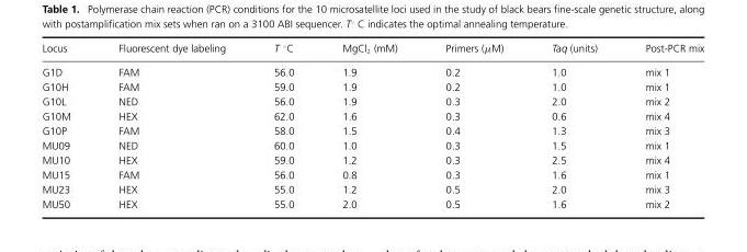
<table><thead><tr><td>Locus</td><td>Fluorescent dye labeling</td><td>T ◦C</td><td>MgCl<sub>2</sub> (mM)</td><td>Primers (μM)</td><td>Taq (units)</td><td>Post-PCR mix</td></tr></thead><tbody><tr><td>G1D</td><td>FAM</td><td>56.0</td><td>1.9</td><td>0.2</td><td>1.0</td><td>mix 1</td></tr><tr><td>G10H</td><td>FAM</td><td>59.0</td><td>1.9</td><td>0.2</td><td>1.0</td><td>mix 1</td></tr><tr><td>G10L</td><td>NED</td><td>56.0</td><td>1.9</td><td>0.3</td><td>2.0</td><td>mix 2</td></tr><tr><td>G10M</td><td>HEX</td><td>62.0</td><td>1.6</td><td>0.3</td><td>0.6</td><td>mix 4</td></tr><tr><td>G10P</td><td>FAM</td><td>58.0</td><td>1.5</td><td>0.4</td><td>1.3</td><td>mix 3</td></tr><tr><td>MU09</td><td>NED</td><td>60.0</td><td>1.0</td><td>0.3</td><td>1.5</td><td>mix 1</td></tr><tr><td>MU10</td><td>HEX</td><td>59.0</td><td>1.2</td><td>0.3</td><td>2.5</td><td>mix 4</td></tr><tr><td>MU15</td><td>FAM</td><td>56.0</td><td>0.8</td><td>0.3</td><td>1.6</td><td>mix 1</td></tr><tr><td>MU23</td><td>HEX</td><td>55.0</td><td>1.2</td><td>0.5</td><td>2.0</td><td>mix 3</td></tr><tr><td>MU50</td><td>HEX</td><td>55.0</td><td>2.0</td><td>0.5</td><td>1.6</td><td>mix 2</td></tr></tbody></table>